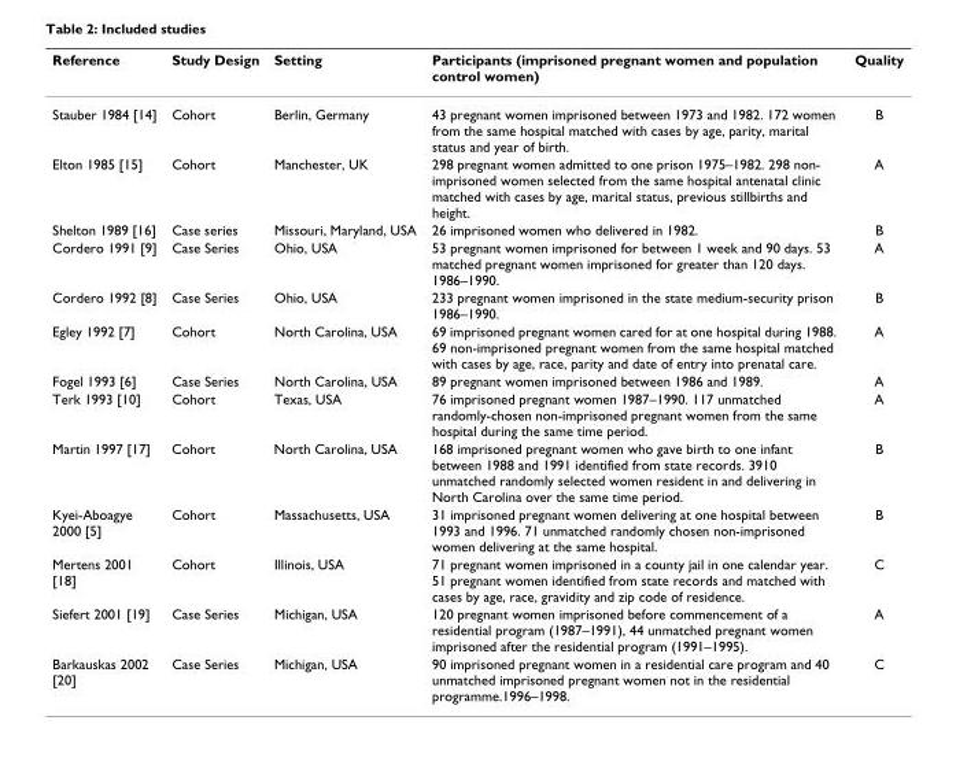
<table><thead><tr><td>Reference</td><td>Study Design</td><td>Setting</td><td>Participants (imprisoned pregnant women and population control women)</td><td>Quality</td></tr></thead><tbody><tr><td>Stauber 1984 [14]</td><td>Cohort</td><td>Berlin, Germany</td><td>43 pregnant women imprisoned between 1973 and 1982. 172 women from the same hospital matched with cases by age, parity, marital status and year of birth.</td><td>B</td></tr><tr><td>Elton 1985 [15]</td><td>Cohort</td><td>Manchester, UK</td><td>298 pregnant women admitted to one prison 1975–1982. 298 non- imprisoned women selected from the same hospital antenatal clinic matched with cases by age, marital status, previous stillbirths and height.</td><td>A</td></tr><tr><td>Shelton 1989 [16]</td><td>Case series</td><td>Missouri, Maryland, USA</td><td>26 imprisoned women who delivered in 1982.</td><td>B</td></tr><tr><td>Cordero 1991 [9]</td><td>Case Series</td><td>Ohio, USA</td><td>53 pregnant women imprisoned for between 1 week and 90 days. 53 matched pregnant women imprisoned for greater than 120 days. 1986–1990.</td><td>A</td></tr><tr><td>Cordero 1992 [8]</td><td>Case Series</td><td>Ohio, USA</td><td>233 pregnant women imprisoned in the state medium-security prison 1986–1990.</td><td>B</td></tr><tr><td>Egley 1992 [7]</td><td>Cohort</td><td>North Carolina, USA</td><td>69 imprisoned pregnant women cared for at one hospital during 1988. 69 non-imprisoned pregnant women from the same hospital matched with cases by age, race, parity and date of entry into prenatal care.</td><td>A</td></tr><tr><td>Fogel 1993 [6]</td><td>Case Series</td><td>North Carolina, USA</td><td>89 pregnant women imprisoned between 1986 and 1989.</td><td>A</td></tr><tr><td>Terk 1993 [10]</td><td>Cohort</td><td>Texas, USA</td><td>76 imprisoned pregnant women 1987–1990. 117 unmatched randomly-chosen non-imprisoned pregnant women from the same hospital during the same time period.</td><td>A</td></tr><tr><td>Martin 1997 [17]</td><td>Cohort</td><td>North Carolina, USA</td><td>168 imprisoned pregnant women who gave birth to one infant between 1988 and 1991 identified from state records. 3910 unmatched randomly selected women resident in and delivering in North Carolina over the same time period.</td><td>B</td></tr><tr><td>Kyei-Aboagye 2000 [5]</td><td>Cohort</td><td>Massachusetts, USA</td><td>31 imprisoned pregnant women delivering at one hospital between 1993 and 1996. 71 unmatched randomly chosen non-imprisoned women delivering at the same hospital.</td><td>B</td></tr><tr><td>Mertens 2001 [18]</td><td>Cohort</td><td>Illinois, USA</td><td>71 pregnant women imprisoned in a county jail in one calendar year. 51 pregnant women identified from state records and matched with cases by age, race, gravidity and zip code of residence.</td><td>C</td></tr><tr><td>Siefert 2001 [19]</td><td>Case Series</td><td>Michigan, USA</td><td>120 pregnant women imprisoned before commencement of a residential program (1987–1991), 44 unmatched pregnant women imprisoned after the residential program (1991–1995).</td><td>A</td></tr><tr><td>Barkauskas 2002 [20]</td><td>Case Series</td><td>Michigan, USA</td><td>90 imprisoned pregnant women in a residential care program and 40 unmatched imprisoned pregnant women not in the residential programme.1996–1998.</td><td>C</td></tr></tbody></table>